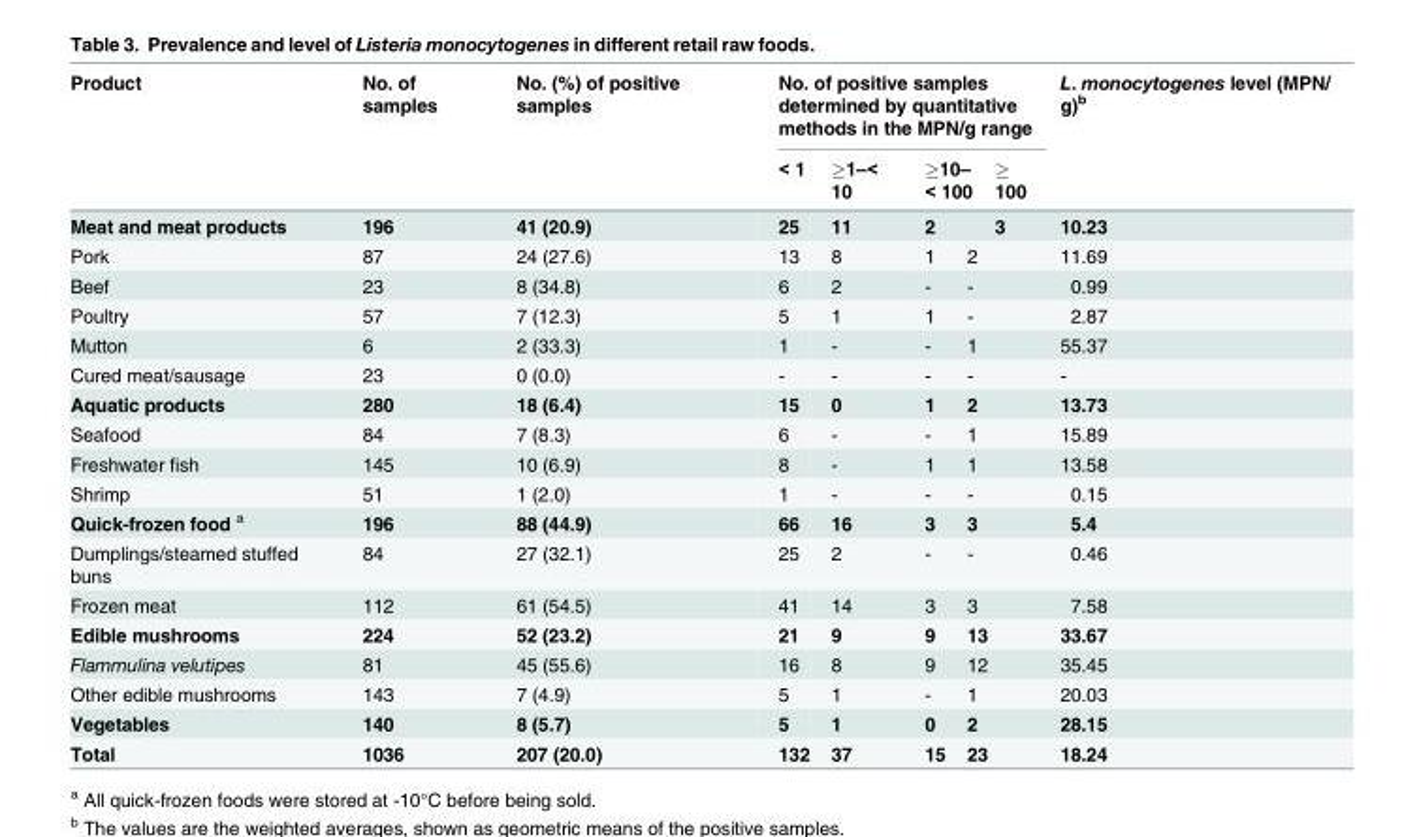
<table><thead><tr><td rowspan="2">Product</td><td rowspan="2">No. of samples</td><td rowspan="2">No. (%) of positive samples</td><td colspan="5">No. of positive samples determined by quantitative methods in the MPN/g range</td><td rowspan="2">L. monocytogenes level (MPN/ g)<sup>b</sup></td></tr><tr><td>&lt; 1</td><td>≥1–&lt; 10</td><td colspan="2">≥10– &lt; 100</td><td>≥ 100</td></tr></thead><tbody><tr><td>Meat and meat products</td><td>196</td><td>41 (20.9)</td><td>25</td><td>11</td><td colspan="2">2</td><td>3</td><td>10.23</td></tr><tr><td>Pork</td><td>87</td><td>24 (27.6)</td><td>13</td><td>8</td><td>1</td><td colspan="2">2</td><td>11.69</td></tr><tr><td>Beef</td><td>23</td><td>8 (34.8)</td><td>6</td><td>2</td><td>-</td><td colspan="2">-</td><td>0.99</td></tr><tr><td>Poultry</td><td>57</td><td>7 (12.3)</td><td>5</td><td>1</td><td>1</td><td colspan="2">-</td><td>2.87</td></tr><tr><td>Mutton</td><td>6</td><td>2 (33.3)</td><td>1</td><td>-</td><td>-</td><td colspan="2">1</td><td>55.37</td></tr><tr><td>Cured meat/sausage</td><td>23</td><td>0 (0.0)</td><td>-</td><td>-</td><td>-</td><td colspan="2">-</td><td>-</td></tr><tr><td>Aquatic products</td><td>280</td><td>18 (6.4)</td><td>15</td><td>0</td><td>1</td><td colspan="2">2</td><td>13.73</td></tr><tr><td>Seafood</td><td>84</td><td>7 (8.3)</td><td>6</td><td>-</td><td>-</td><td colspan="2">1</td><td>15.89</td></tr><tr><td>Freshwater fish</td><td>145</td><td>10 (6.9)</td><td>8</td><td>-</td><td>1</td><td colspan="2">1</td><td>13.58</td></tr><tr><td>Shrimp</td><td>51</td><td>1 (2.0)</td><td>1</td><td>-</td><td>-</td><td colspan="2">-</td><td>0.15</td></tr><tr><td>Quick-frozen food <sup>a</sup></td><td>196</td><td>88 (44.9)</td><td>66</td><td>16</td><td>3</td><td colspan="2">3</td><td>5.4</td></tr><tr><td>Dumplings/steamed stuffed buns</td><td>84</td><td>27 (32.1)</td><td>25</td><td>2</td><td>-</td><td colspan="2">-</td><td>0.46</td></tr><tr><td>Frozen meat</td><td>112</td><td>61 (54.5)</td><td>41</td><td>14</td><td>3</td><td colspan="2">3</td><td>7.58</td></tr><tr><td>Edible mushrooms</td><td>224</td><td>52 (23.2)</td><td>21</td><td>9</td><td>9</td><td colspan="2">13</td><td>33.67</td></tr><tr><td>Flammulina velutipes</td><td>81</td><td>45 (55.6)</td><td>16</td><td>8</td><td>9</td><td colspan="2">12</td><td>35.45</td></tr><tr><td>Other edible mushrooms</td><td>143</td><td>7 (4.9)</td><td>5</td><td>1</td><td>-</td><td colspan="2">1</td><td>20.03</td></tr><tr><td>Vegetables</td><td>140</td><td>8 (5.7)</td><td>5</td><td>1</td><td>0</td><td colspan="2">2</td><td>28.15</td></tr><tr><td>Total</td><td>1036</td><td>207 (20.0)</td><td>132</td><td>37</td><td>15</td><td colspan="2">23</td><td>18.24</td></tr></tbody></table>